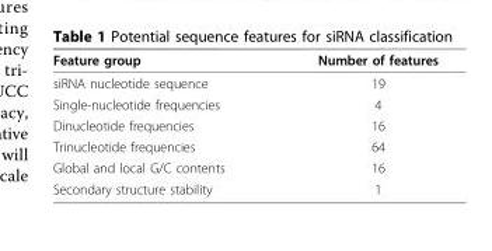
<table><thead><tr><td>Feature group</td><td>Number of features</td></tr></thead><tbody><tr><td>siRNA nucleotide sequence</td><td>19</td></tr><tr><td>Single-nucleotide frequencies</td><td>4</td></tr><tr><td>Dinucleotide frequencies</td><td>16</td></tr><tr><td>Trinucleotide frequencies</td><td>64</td></tr><tr><td>Global and local G/C contents</td><td>16</td></tr><tr><td>Secondary structure stability</td><td>1</td></tr></tbody></table>